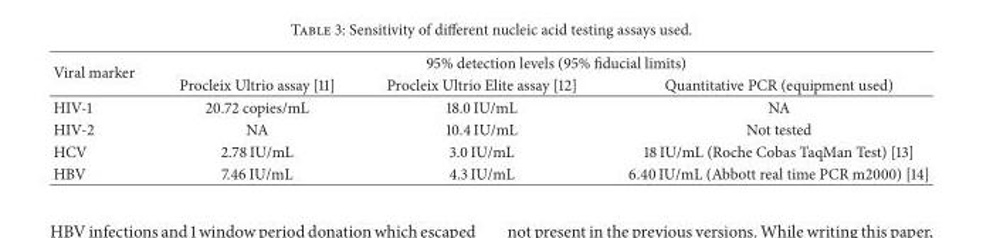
<table><thead><tr><td rowspan="2">Viral marker</td><td colspan="3">95% detection levels (95% fiducial limits)</td></tr><tr><td>Procleix Ultrio assay [11]</td><td>Procleix Ultrio Elite assay [12]</td><td>Quantitative PCR (equipment used)</td></tr></thead><tbody><tr><td>HIV-1</td><td>20.72 copies/mL</td><td>18.0 IU/mL</td><td>NA</td></tr><tr><td>HIV-2</td><td>NA</td><td>10.4 IU/mL</td><td>Not tested</td></tr><tr><td>HCV</td><td>2.78 IU/mL</td><td>3.0 IU/mL</td><td>18 IU/mL (Roche Cobas TaqMan Test) [13]</td></tr><tr><td>HBV</td><td>7.46 IU/mL</td><td>4.3 IU/mL</td><td>6.40 IU/mL (Abbott real time PCR m2000) [14]</td></tr></tbody></table>